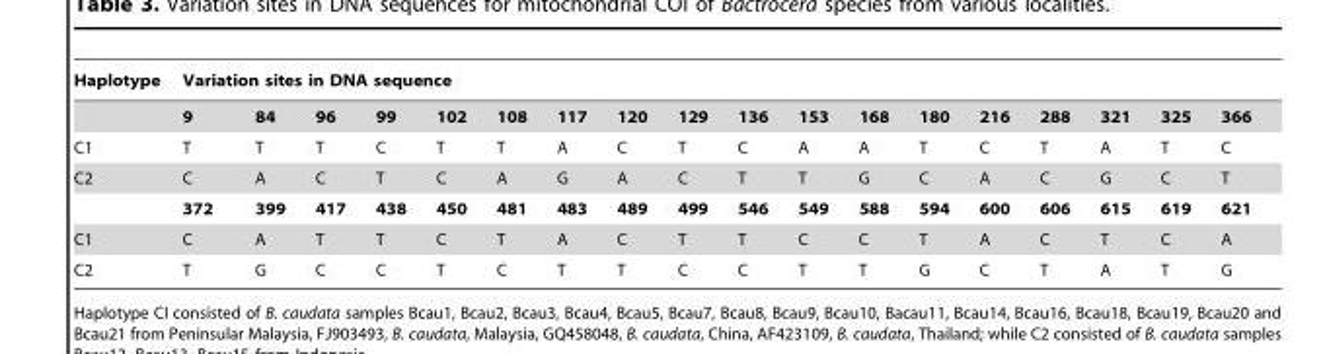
<table><thead><tr><td rowspan="2">Haplotype</td><td colspan="18">Variation sites in DNA sequence</td></tr><tr><td>9</td><td>84</td><td>96</td><td>99</td><td>102</td><td>108</td><td>117</td><td>120</td><td>129</td><td>136</td><td>153</td><td>168</td><td>180</td><td>216</td><td>288</td><td>321</td><td>325</td><td>366</td></tr></thead><tbody><tr><td>C1</td><td>T</td><td>T</td><td>T</td><td>C</td><td>T</td><td>T</td><td>A</td><td>C</td><td>T</td><td>C</td><td>A</td><td>A</td><td>T</td><td>C</td><td>T</td><td>A</td><td>T</td><td>C</td></tr><tr><td rowspan="2">C2</td><td>C</td><td>A</td><td>C</td><td>T</td><td>C</td><td>A</td><td>G</td><td>A</td><td>C</td><td>T</td><td>T</td><td>G</td><td>C</td><td>A</td><td>C</td><td>G</td><td>C</td><td>T</td></tr><tr><td>372</td><td>399</td><td>417</td><td>438</td><td>450</td><td>481</td><td>483</td><td>489</td><td>499</td><td>546</td><td>549</td><td>588</td><td>594</td><td>600</td><td>606</td><td>615</td><td>619</td><td>621</td></tr><tr><td>C1</td><td>C</td><td>A</td><td>T</td><td>T</td><td>C</td><td>T</td><td>A</td><td>C</td><td>T</td><td>T</td><td>C</td><td>C</td><td>T</td><td>A</td><td>C</td><td>T</td><td>C</td><td>A</td></tr><tr><td>C2</td><td>T</td><td>G</td><td>C</td><td>C</td><td>T</td><td>C</td><td>T</td><td>T</td><td>C</td><td>C</td><td>T</td><td>T</td><td>G</td><td>C</td><td>T</td><td>A</td><td>T</td><td>G</td></tr></tbody></table>